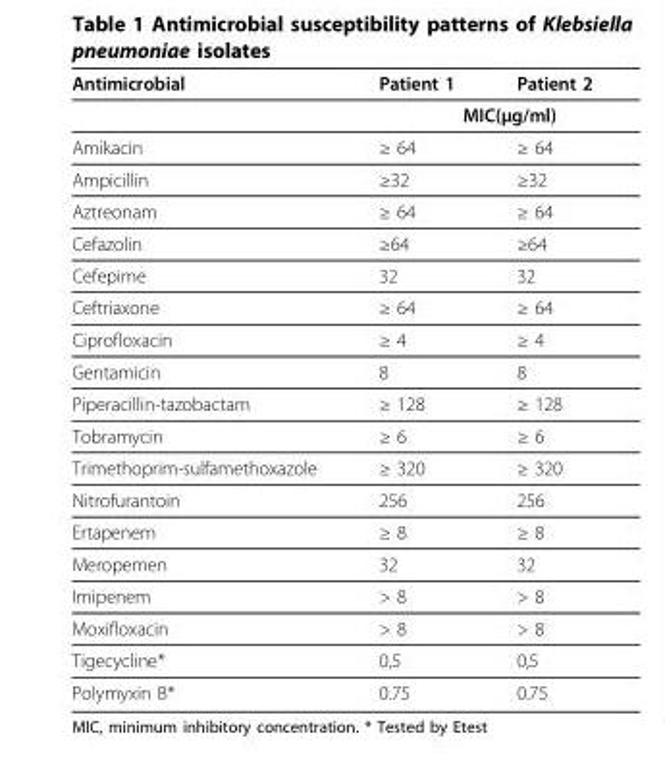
<table><thead><tr><td>Antimicrobial</td><td>Patient 1</td><td>Patient 2</td></tr></thead><tbody><tr><td></td><td colspan="2">MIC(μg/ml)</td></tr><tr><td>Amikacin</td><td>≥ 64</td><td>≥ 64</td></tr><tr><td>Ampicillin</td><td>≥32</td><td>≥32</td></tr><tr><td>Aztreonam</td><td>≥ 64</td><td>≥ 64</td></tr><tr><td>Cefazolin</td><td>≥64</td><td>≥64</td></tr><tr><td>Cefepime</td><td>32</td><td>32</td></tr><tr><td>Ceftriaxone</td><td>≥ 64</td><td>≥ 64</td></tr><tr><td>Ciprofloxacin</td><td>≥ 4</td><td>≥ 4</td></tr><tr><td>Gentamicin</td><td>8</td><td>8</td></tr><tr><td>Piperacillin-tazobactam</td><td>≥ 128</td><td>≥ 128</td></tr><tr><td>Tobramycin</td><td>≥ 6</td><td>≥ 6</td></tr><tr><td>Trimethoprim-sulfamethoxazole</td><td>≥ 320</td><td>≥ 320</td></tr><tr><td>Nitrofurantoin</td><td>256</td><td>256</td></tr><tr><td>Ertapenem</td><td>≥ 8</td><td>≥ 8</td></tr><tr><td>Meropemen</td><td>32</td><td>32</td></tr><tr><td>Imipenem</td><td>&gt; 8</td><td>&gt; 8</td></tr><tr><td>Moxifloxacin</td><td>&gt; 8</td><td>&gt; 8</td></tr><tr><td>Tigecycline*</td><td>0,5</td><td>0,5</td></tr><tr><td>Polymyxin B*</td><td>0.75</td><td>0.75</td></tr></tbody></table>